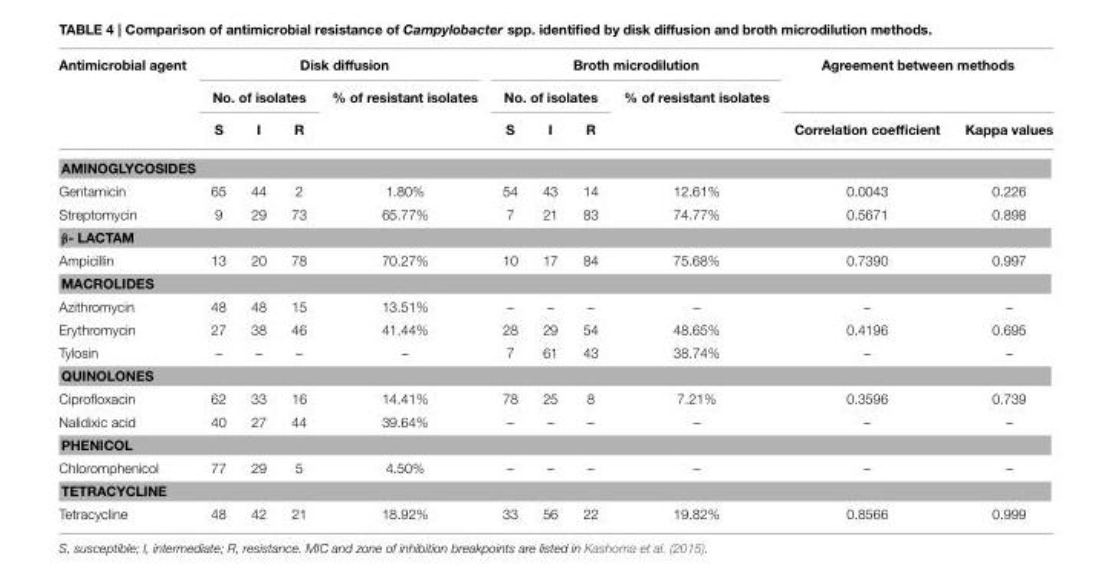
<table><thead><tr><td rowspan="3">Antimicrobial agent</td><td colspan="4">Disk diffusion</td><td colspan="4">Broth microdilution</td><td colspan="2">Agreement between methods</td></tr><tr><td colspan="3">No. of isolates</td><td rowspan="2">% of resistant isolates</td><td colspan="3">No. of isolates</td><td rowspan="2">% of resistant isolates</td><td rowspan="2">Correlation coefficient</td><td rowspan="2">Kappa values</td></tr><tr><td>S</td><td>I</td><td>R</td><td>S</td><td>I</td><td>R</td></tr></thead><tbody><tr><td colspan="11">AMINOGLYCOSIDES</td></tr><tr><td>Gentamicin</td><td>65</td><td>44</td><td>2</td><td>1.80%</td><td>54</td><td>43</td><td>14</td><td>12.61%</td><td>0.0043</td><td>0.226</td></tr><tr><td>Streptomycin</td><td>9</td><td>29</td><td>73</td><td>65.77%</td><td>7</td><td>21</td><td>83</td><td>74.77%</td><td>0.5671</td><td>0.898</td></tr><tr><td colspan="11">β- LACTAM</td></tr><tr><td>Ampicillin</td><td>13</td><td>20</td><td>78</td><td>70.27%</td><td>10</td><td>17</td><td>84</td><td>75.68%</td><td>0.7390</td><td>0.997</td></tr><tr><td colspan="11">MACROLIDES</td></tr><tr><td>Azithromycin</td><td>48</td><td>48</td><td>15</td><td>13.51%</td><td>–</td><td>–</td><td>–</td><td>–</td><td>–</td><td>–</td></tr><tr><td>Erythromycin</td><td>27</td><td>38</td><td>46</td><td>41.44%</td><td>28</td><td>29</td><td>54</td><td>48.65%</td><td>0.4196</td><td>0.695</td></tr><tr><td>Tylosin</td><td>–</td><td>–</td><td>–</td><td>–</td><td>7</td><td>61</td><td>43</td><td>38.74%</td><td>–</td><td>–</td></tr><tr><td colspan="11">QUINOLONES</td></tr><tr><td>Ciprofloxacin</td><td>62</td><td>33</td><td>16</td><td>14.41%</td><td>78</td><td>25</td><td>8</td><td>7.21%</td><td>0.3596</td><td>0.739</td></tr><tr><td>Nalidixic acid</td><td>40</td><td>27</td><td>44</td><td>39.64%</td><td>–</td><td>–</td><td>–</td><td>–</td><td>–</td><td>–</td></tr><tr><td colspan="11">PHENICOL</td></tr><tr><td>Chloromphenicol</td><td>77</td><td>29</td><td>5</td><td>4.50%</td><td>–</td><td>–</td><td>–</td><td>–</td><td>–</td><td>–</td></tr><tr><td colspan="11">TETRACYCLINE</td></tr><tr><td>Tetracycline</td><td>48</td><td>42</td><td>21</td><td>18.92%</td><td>33</td><td>56</td><td>22</td><td>19.82%</td><td>0.8566</td><td>0.999</td></tr></tbody></table>